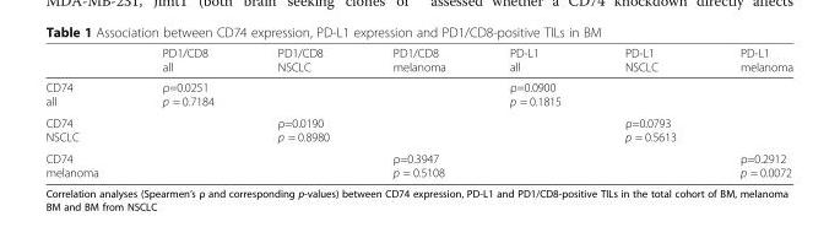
<table><thead><tr><td></td><td>PD1/CD8 all</td><td>PD1/CD8 NSCLC</td><td>PD1/CD8 melanoma</td><td>PD-L1 all</td><td>PD-L1 NSCLC</td><td>PD-L1 melanoma</td></tr></thead><tbody><tr><td>CD74 all</td><td>ρ=0.0251 p = 0.7184</td><td></td><td></td><td>ρ=0.0900 p = 0.1815</td><td></td><td></td></tr><tr><td>CD74 NSCLC</td><td></td><td>ρ=0.0190 p = 0.8980</td><td></td><td></td><td>ρ=0.0793 p = 0.5613</td><td></td></tr><tr><td>CD74 melanoma</td><td></td><td></td><td>ρ=0.3947 p = 0.5108</td><td></td><td></td><td>ρ=0.2912 p = 0.0072</td></tr></tbody></table>